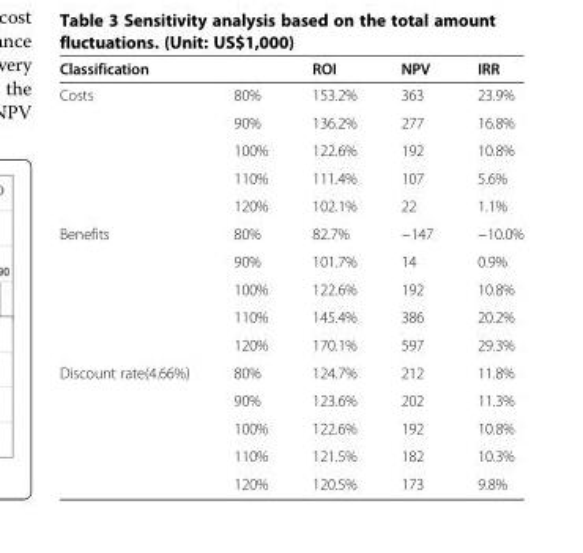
<table><thead><tr><td colspan="2">Classification</td><td rowspan="2">ROI 153.2%</td><td rowspan="2">NPV 363</td><td rowspan="2">IRR 23.9%</td></tr><tr><td>Costs</td><td>80%</td></tr></thead><tbody><tr><td></td><td>90%</td><td>136.2%</td><td>277</td><td>16.8%</td></tr><tr><td></td><td>100%</td><td>122.6%</td><td>192</td><td>10.8%</td></tr><tr><td></td><td>110%</td><td>111.4%</td><td>107</td><td>5.6%</td></tr><tr><td></td><td>120%</td><td>102.1%</td><td>22</td><td>1.1%</td></tr><tr><td rowspan="5">Benefits</td><td>80%</td><td>82.7%</td><td>−147</td><td>−10.0%</td></tr><tr><td>90%</td><td>101.7%</td><td>14</td><td>0.9%</td></tr><tr><td>100%</td><td>122.6%</td><td>192</td><td>10.8%</td></tr><tr><td>110%</td><td>145.4%</td><td>386</td><td>20.2%</td></tr><tr><td>120%</td><td>170.1%</td><td>597</td><td>29.3%</td></tr><tr><td rowspan="5">Discount rate(4.66%)</td><td>80%</td><td>124.7%</td><td>212</td><td>11.8%</td></tr><tr><td>90%</td><td>123.6%</td><td>202</td><td>11.3%</td></tr><tr><td>100%</td><td>122.6%</td><td>192</td><td>10.8%</td></tr><tr><td>110%</td><td>121.5%</td><td>182</td><td>10.3%</td></tr><tr><td>120%</td><td>120.5%</td><td>173</td><td>9.8%</td></tr></tbody></table>